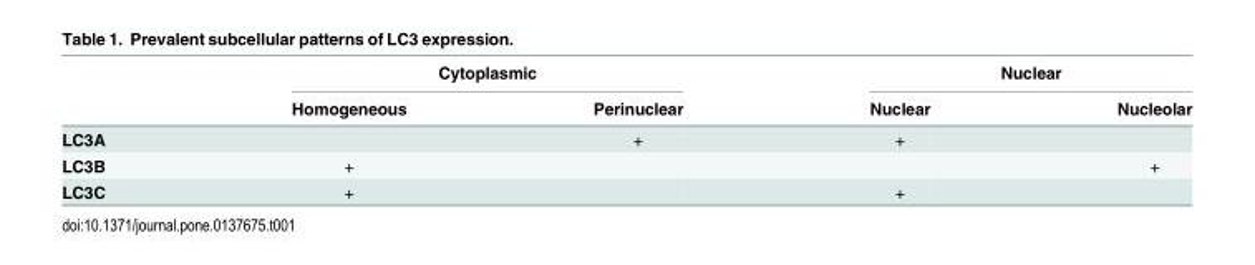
<table><thead><tr><td rowspan="2"></td><td colspan="2">Cytoplasmic</td><td colspan="2">Nuclear</td></tr><tr><td>Homogeneous</td><td>Perinuclear</td><td>Nuclear</td><td>Nucleolar</td></tr></thead><tbody><tr><td>LC3A</td><td></td><td>+</td><td>+</td><td></td></tr><tr><td>LC3B</td><td>+</td><td></td><td></td><td>+</td></tr><tr><td>LC3C</td><td>+</td><td></td><td>+</td><td></td></tr></tbody></table>